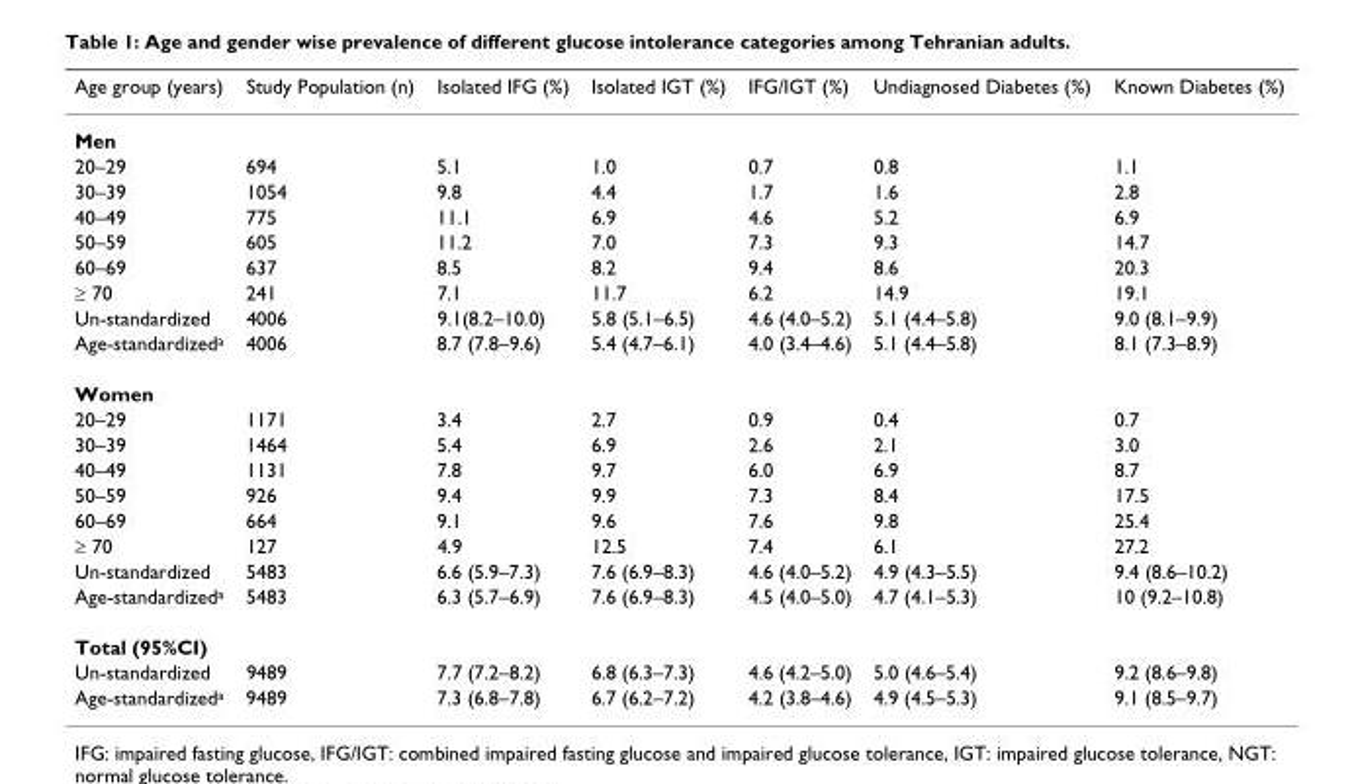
<table><thead><tr><td>Age group (years)</td><td>Study Population (n)</td><td>Isolated IFG (%)</td><td>Isolated IGT (%)</td><td>IFG/IGT (%)</td><td>Undiagnosed Diabetes (%)</td><td>Known Diabetes (%)</td></tr></thead><tbody><tr><td colspan="7">Men</td></tr><tr><td>20–29</td><td>694</td><td>5.1</td><td>1.0</td><td>0.7</td><td>0.8</td><td>1.1</td></tr><tr><td>30–39</td><td>1054</td><td>9.8</td><td>4.4</td><td>1.7</td><td>1.6</td><td>2.8</td></tr><tr><td>40–49</td><td>775</td><td>11.1</td><td>6.9</td><td>4.6</td><td>5.2</td><td>6.9</td></tr><tr><td>50–59</td><td>605</td><td>11.2</td><td>7.0</td><td>7.3</td><td>9.3</td><td>14.7</td></tr><tr><td>60–69</td><td>637</td><td>8.5</td><td>8.2</td><td>9.4</td><td>8.6</td><td>20.3</td></tr><tr><td>≥ 70</td><td>241</td><td>7.1</td><td>11.7</td><td>6.2</td><td>14.9</td><td>19.1</td></tr><tr><td>Un-standardized</td><td>4006</td><td>9.1(8.2–10.0)</td><td>5.8 (5.1–6.5)</td><td>4.6 (4.0–5.2)</td><td>5.1 (4.4–5.8)</td><td>9.0 (8.1–9.9)</td></tr><tr><td>Age-standardized<sup>a</sup></td><td>4006</td><td>8.7 (7.8–9.6)</td><td>5.4 (4.7–6.1)</td><td>4.0 (3.4–4.6)</td><td>5.1 (4.4–5.8)</td><td>8.1 (7.3–8.9)</td></tr><tr><td colspan="7">Women</td></tr><tr><td>20–29</td><td>1171</td><td>3.4</td><td>2.7</td><td>0.9</td><td>0.4</td><td>0.7</td></tr><tr><td>30–39</td><td>1464</td><td>5.4</td><td>6.9</td><td>2.6</td><td>2.1</td><td>3.0</td></tr><tr><td>40–49</td><td>1131</td><td>7.8</td><td>9.7</td><td>6.0</td><td>6.9</td><td>8.7</td></tr><tr><td>50–59</td><td>926</td><td>9.4</td><td>9.9</td><td>7.3</td><td>8.4</td><td>17.5</td></tr><tr><td>60–69</td><td>664</td><td>9.1</td><td>9.6</td><td>7.6</td><td>9.8</td><td>25.4</td></tr><tr><td>≥ 70</td><td>127</td><td>4.9</td><td>12.5</td><td>7.4</td><td>6.1</td><td>27.2</td></tr><tr><td>Un-standardized</td><td>5483</td><td>6.6 (5.9–7.3)</td><td>7.6 (6.9–8.3)</td><td>4.6 (4.0–5.2)</td><td>4.9 (4.3–5.5)</td><td>9.4 (8.6–10.2)</td></tr><tr><td>Age-standardized<sup>a</sup></td><td>5483</td><td>6.3 (5.7–6.9)</td><td>7.6 (6.9–8.3)</td><td>4.5 (4.0–5.0)</td><td>4.7 (4.1–5.3)</td><td>10 (9.2–10.8)</td></tr><tr><td colspan="7">Total (95%CI)</td></tr><tr><td>Un-standardized</td><td>9489</td><td>7.7 (7.2–8.2)</td><td>6.8 (6.3–7.3)</td><td>4.6 (4.2–5.0)</td><td>5.0 (4.6–5.4)</td><td>9.2 (8.6–9.8)</td></tr><tr><td>Age-standardized<sup>a</sup></td><td>9489</td><td>7.3 (6.8–7.8)</td><td>6.7 (6.2–7.2)</td><td>4.2 (3.8–4.6)</td><td>4.9 (4.5–5.3)</td><td>9.1 (8.5–9.7)</td></tr></tbody></table>